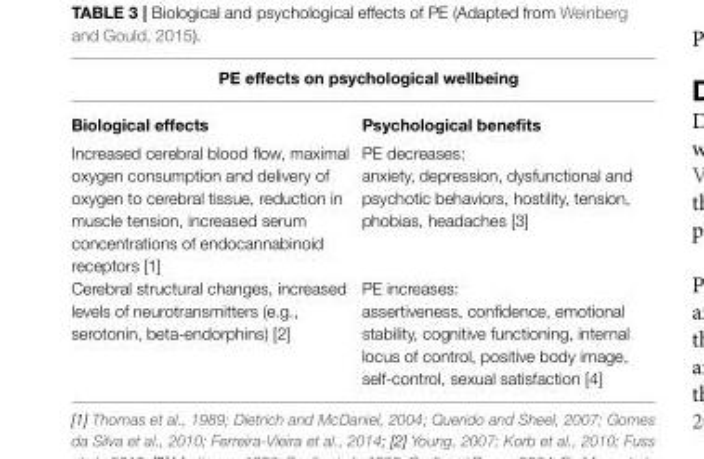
<table><thead><tr><td colspan="2">PE effects on psychological wellbeing</td></tr><tr><td>Biological effects</td><td>Psychological benefits</td></tr></thead><tbody><tr><td>Increased cerebral blood flow, maximal oxygen consumption and delivery of oxygen to cerebral tissue, reduction in muscle tension, increased serum concentrations of endocannabinoid receptors [1] Cerebral structural changes, increased levels of neurotransmitters (e.g., serotonin, beta-endorphins) [2]</td><td>PE decreases: anxiety, depression, dysfunctional and psychotic behaviors, hostility, tension, phobias, headaches [3] PE increases: assertiveness, confidence, emotional stability, cognitive functioning, internal locus of control, positive body image, self-control, sexual satisfaction [4]</td></tr></tbody></table>